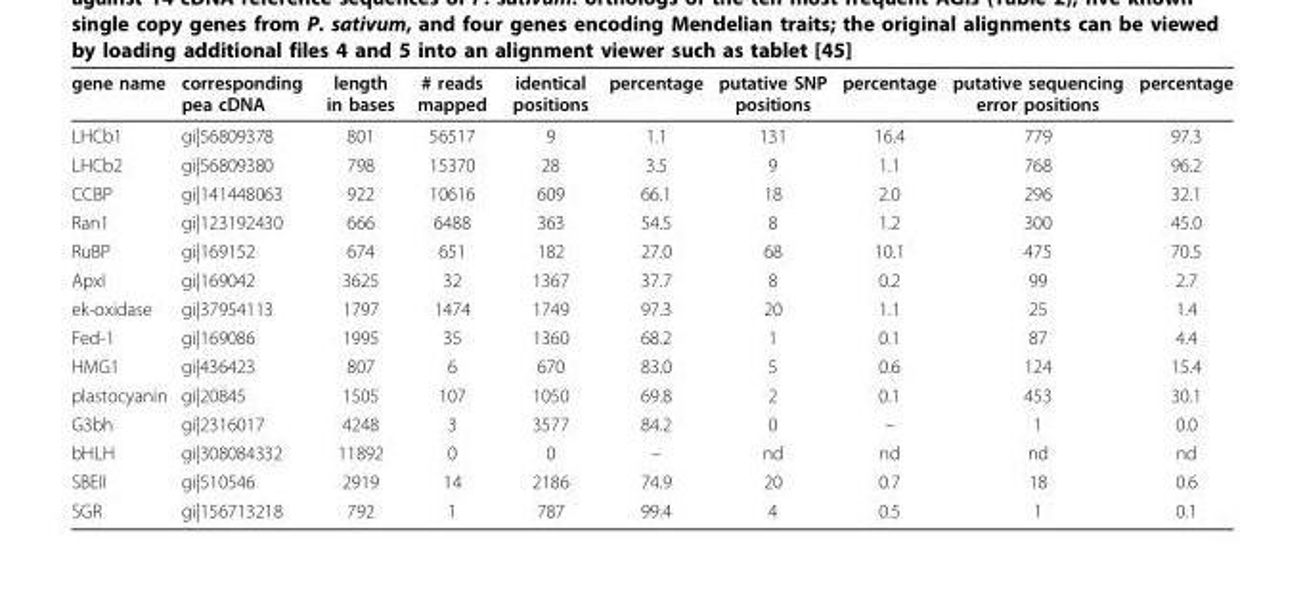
<table><thead><tr><td>gene name</td><td>corresponding pea cDNA</td><td>length in bases</td><td># reads mapped</td><td>identical positions</td><td>percentage</td><td>putative SNP positions</td><td>percentage</td><td>putative sequencing error positions</td><td>percentage</td></tr></thead><tbody><tr><td>LHCb1</td><td>gi|56809378</td><td>801</td><td>56517</td><td>9</td><td>1.1</td><td>131</td><td>16.4</td><td>779</td><td>97.3</td></tr><tr><td>LHCb2</td><td>gi|56809380</td><td>798</td><td>15370</td><td>28</td><td>3.5</td><td>9</td><td>1.1</td><td>768</td><td>96.2</td></tr><tr><td>CCBP</td><td>gi|141448063</td><td>922</td><td>10616</td><td>609</td><td>66.1</td><td>18</td><td>2.0</td><td>296</td><td>32.1</td></tr><tr><td>Ran1</td><td>gi|123192430</td><td>666</td><td>6488</td><td>363</td><td>54.5</td><td>8</td><td>1.2</td><td>300</td><td>45.0</td></tr><tr><td>RuBP</td><td>gi|169152</td><td>674</td><td>651</td><td>182</td><td>27.0</td><td>68</td><td>10.1</td><td>475</td><td>70.5</td></tr><tr><td>ApxI</td><td>gi|169042</td><td>3625</td><td>32</td><td>1367</td><td>37.7</td><td>8</td><td>0.2</td><td>99</td><td>2.7</td></tr><tr><td>ek-oxidase</td><td>gi|37954113</td><td>1797</td><td>1474</td><td>1749</td><td>97.3</td><td>20</td><td>1.1</td><td>25</td><td>1.4</td></tr><tr><td>Fed-1</td><td>gi|169086</td><td>1995</td><td>35</td><td>1360</td><td>68.2</td><td>1</td><td>0.1</td><td>87</td><td>4.4</td></tr><tr><td>HMG1</td><td>gi|436423</td><td>807</td><td>6</td><td>670</td><td>83.0</td><td>5</td><td>0.6</td><td>124</td><td>15.4</td></tr><tr><td>plastocyanin</td><td>gi|20845</td><td>1505</td><td>107</td><td>1050</td><td>69.8</td><td>2</td><td>0.1</td><td>453</td><td>30.1</td></tr><tr><td>G3bh</td><td>gi|2316017</td><td>4248</td><td>3</td><td>3577</td><td>84.2</td><td>0</td><td>–</td><td>1</td><td>0.0</td></tr><tr><td>bHLH</td><td>gi|308084332</td><td>11892</td><td>0</td><td>0</td><td>–</td><td>nd</td><td>nd</td><td>nd</td><td>nd</td></tr><tr><td>SBEII</td><td>gi|510546</td><td>2919</td><td>14</td><td>2186</td><td>74.9</td><td>20</td><td>0.7</td><td>18</td><td>0.6</td></tr><tr><td>SGR</td><td>gi|156713218</td><td>792</td><td>1</td><td>787</td><td>99.4</td><td>4</td><td>0.5</td><td>1</td><td>0.1</td></tr></tbody></table>